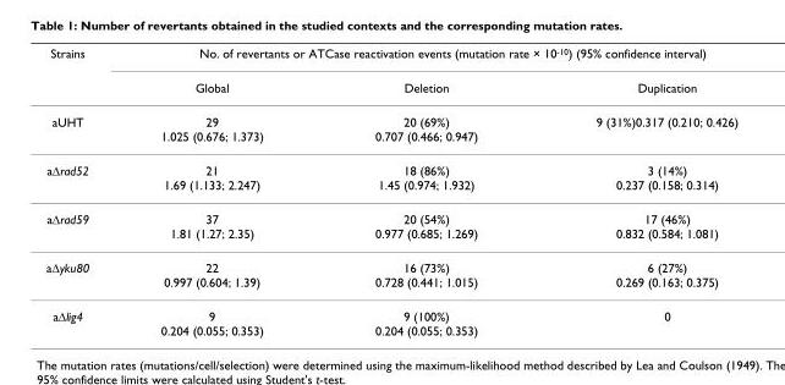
<table><thead><tr><td rowspan="2">Strains</td><td colspan="3">No. of revertants or ATCase reactivation events (mutation rate × 10<sup>-10</sup>) (95% confidence interval)</td></tr><tr><td>Global</td><td>Deletion</td><td>Duplication</td></tr></thead><tbody><tr><td>aUHT</td><td>29 1.025 (0.676; 1.373)</td><td>20 (69%) 0.707 (0.466; 0.947)</td><td>9 (31%)0.317 (0.210; 0.426)</td></tr><tr><td>aΔrad52</td><td>21 1.69 (1.133; 2.247)</td><td>18 (86%) 1.45 (0.974; 1.932)</td><td>3 (14%) 0.237 (0.158; 0.314)</td></tr><tr><td>aΔrad59</td><td>37 1.81 (1.27; 2.35)</td><td>20 (54%) 0.977 (0.685; 1.269)</td><td>17 (46%) 0.832 (0.584; 1.081)</td></tr><tr><td>aΔyku80</td><td>22 0.997 (0.604; 1.39)</td><td>16 (73%) 0.728 (0.441; 1.015)</td><td>6 (27%) 0.269 (0.163; 0.375)</td></tr><tr><td>aΔlig4</td><td>9 0.204 (0.055; 0.353)</td><td>9 (100%) 0.204 (0.055; 0.353)</td><td>0</td></tr></tbody></table>